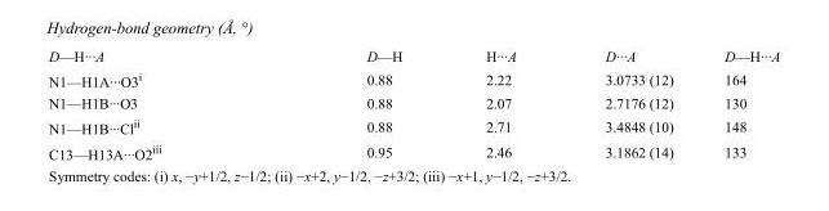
<table><tbody><tr><td>D—H···A</td><td>D—H</td><td>H···A</td><td>D···A</td><td>D—H···A</td></tr><tr><td>N1—H1A···O3<sup>i</sup></td><td>0.88</td><td>2.22</td><td>3.0733 (12)</td><td>164</td></tr><tr><td>N1—H1B···O3</td><td>0.88</td><td>2.07</td><td>2.7176 (12)</td><td>130</td></tr><tr><td>N1—H1B···Cl<sup>ii</sup></td><td>0.88</td><td>2.71</td><td>3.4848 (10)</td><td>148</td></tr><tr><td>C13—H13A···O2<sup>iii</sup></td><td>0.95</td><td>2.46</td><td>3.1862 (14)</td><td>133</td></tr></tbody></table>